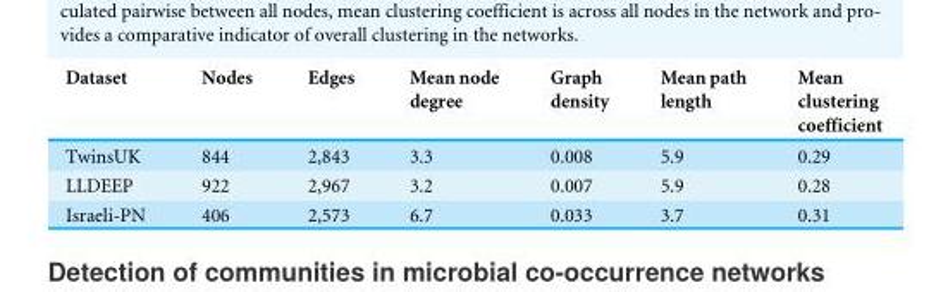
<table><thead><tr><td>Dataset</td><td>Nodes</td><td>Edges</td><td>Mean node degree</td><td>Graph density</td><td>Mean path length</td><td>Mean clustering coefficient</td></tr></thead><tbody><tr><td>TwinsUK</td><td>844</td><td>2,843</td><td>3.3</td><td>0.008</td><td>5.9</td><td>0.29</td></tr><tr><td>LLDEEP</td><td>922</td><td>2,967</td><td>3.2</td><td>0.007</td><td>5.9</td><td>0.28</td></tr><tr><td>Israeli-PN</td><td>406</td><td>2,573</td><td>6.7</td><td>0.033</td><td>3.7</td><td>0.31</td></tr></tbody></table>